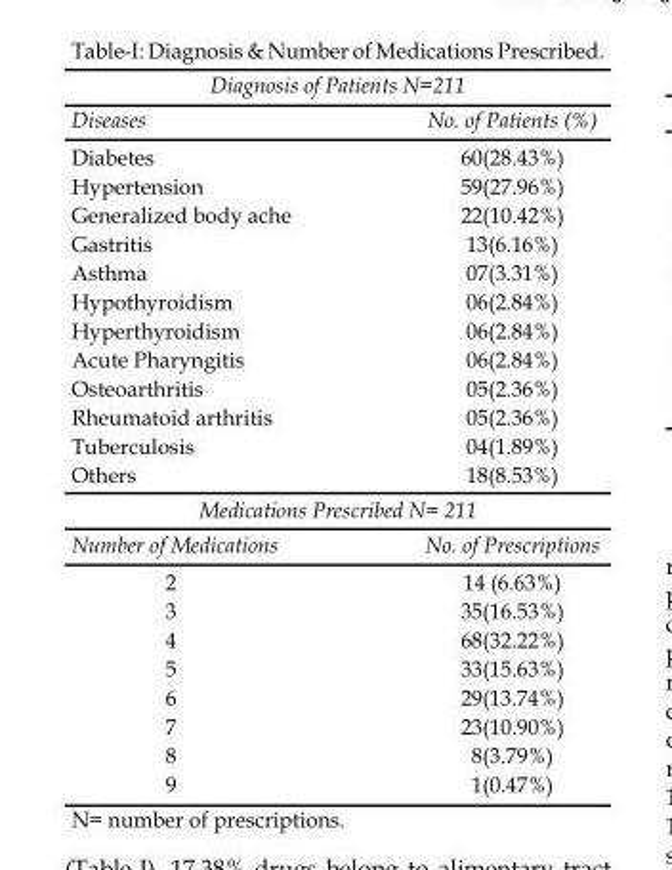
<table><thead><tr><td colspan="2">Diagnosis of Patients N=211</td></tr><tr><td>Diseases</td><td>No. of Patients (%)</td></tr></thead><tbody><tr><td>Diabetes</td><td>60(28.43%)</td></tr><tr><td>Hypertension</td><td>59(27.96%)</td></tr><tr><td>Generalized body ache</td><td>22(10.42%)</td></tr><tr><td>Gastritis</td><td>13(6.16%)</td></tr><tr><td>Asthma</td><td>07(3.31%)</td></tr><tr><td>Hypothyroidism</td><td>06(2.84%)</td></tr><tr><td>Hyperthyroidism</td><td>06(2.84%)</td></tr><tr><td>Acute Pharyngitis</td><td>06(2.84%)</td></tr><tr><td>Osteoarthritis</td><td>05(2.36%)</td></tr><tr><td>Rheumatoid arthritis</td><td>05(2.36%)</td></tr><tr><td>Tuberculosis</td><td>04(1.89%)</td></tr><tr><td>Others</td><td>18(8.53%)</td></tr><tr><td colspan="2">Medications Prescribed N= 211</td></tr><tr><td>Number of Medications</td><td>No. of Prescriptions</td></tr><tr><td>2</td><td>14 (6.63%)</td></tr><tr><td>3</td><td>35(16.53%)</td></tr><tr><td>4</td><td>68(32.22%)</td></tr><tr><td>5</td><td>33(15.63%)</td></tr><tr><td>6</td><td>29(13.74%)</td></tr><tr><td>7</td><td>23(10.90%)</td></tr><tr><td>8</td><td>8(3.79%)</td></tr><tr><td>9</td><td>1(0.47%)</td></tr></tbody></table>